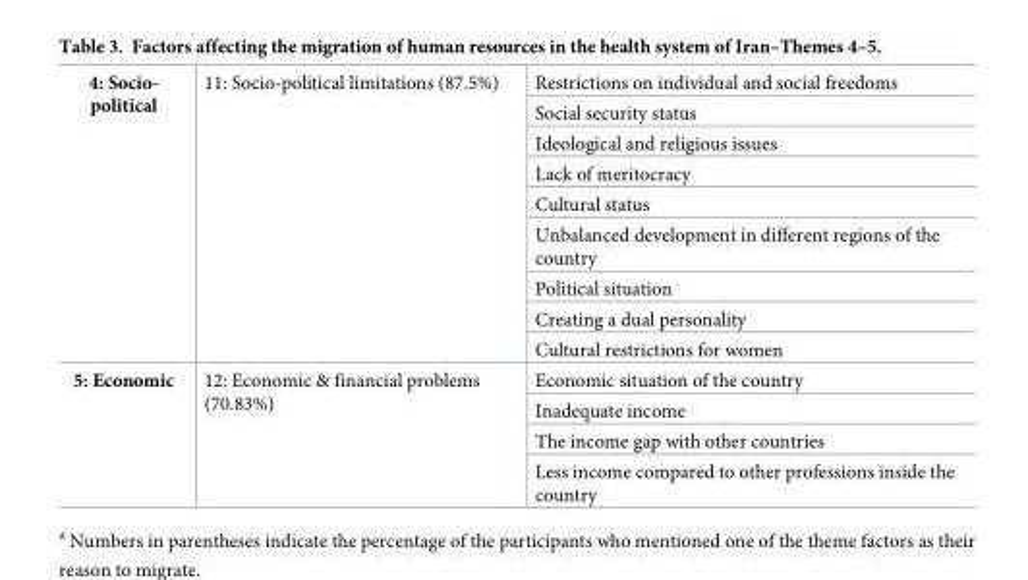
<table><tbody><tr><td rowspan="9">4: Socio- political</td><td rowspan="9">11: Socio-political limitations (87.5%)</td><td>Restrictions on individual and social freedoms</td></tr><tr><td>Social security status</td></tr><tr><td>Ideological and religious issues</td></tr><tr><td>Lack of meritocracy</td></tr><tr><td>Cultural status</td></tr><tr><td>Unbalanced development in different regions of the country</td></tr><tr><td>Political situation</td></tr><tr><td>Creating a dual personality</td></tr><tr><td>Cultural restrictions for women</td></tr><tr><td rowspan="4">5: Economic</td><td rowspan="4">12: Economic &amp; financial problems (70.83%)</td><td>Economic situation of the country</td></tr><tr><td>Inadequate income</td></tr><tr><td>The income gap with other countries</td></tr><tr><td>Less income compared to other professions inside the country</td></tr></tbody></table>